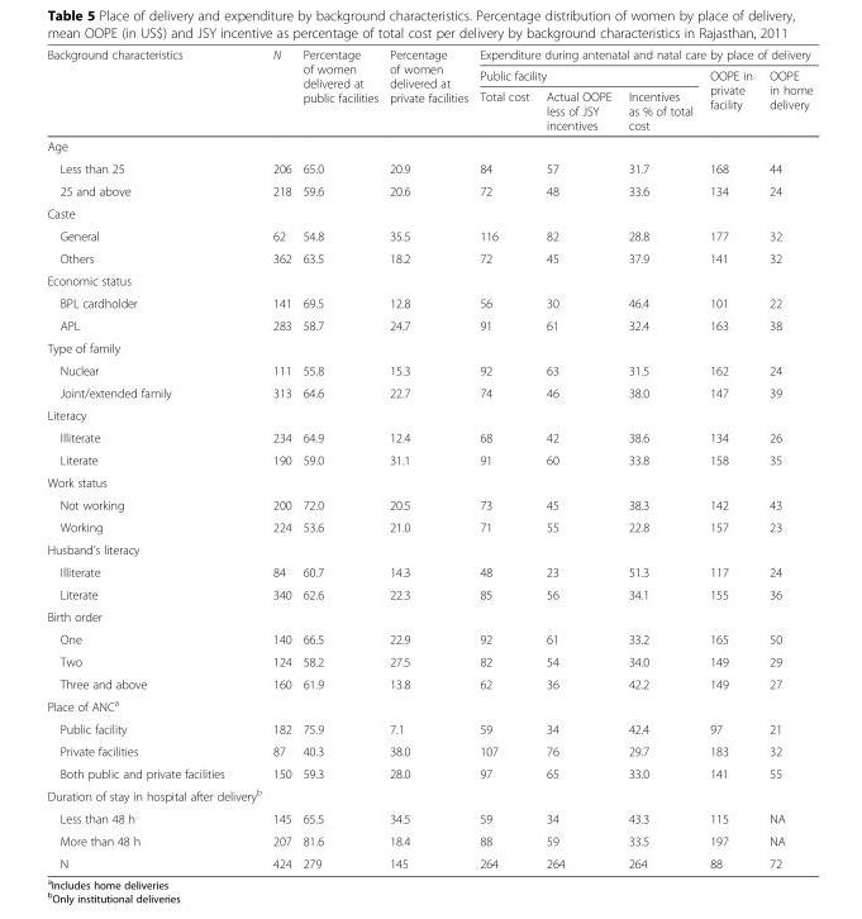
<table><thead><tr><td rowspan="3">Background characteristics</td><td rowspan="3">N</td><td rowspan="3">Percentage of women delivered at public facilities</td><td rowspan="3">Percentage of women delivered at private facilities</td><td colspan="5">Expenditure during antenatal and natal care by place of delivery</td></tr><tr><td colspan="3">Public facility</td><td rowspan="2">OOPE in private facility</td><td rowspan="2">OOPE in home delivery</td></tr><tr><td>Total cost</td><td>Actual OOPE less of JSY incentives</td><td>Incentives as % of total cost</td></tr></thead><tbody><tr><td colspan="9">Age</td></tr><tr><td>Less than 25</td><td>206</td><td>65.0</td><td>20.9</td><td>84</td><td>57</td><td>31.7</td><td>168</td><td>44</td></tr><tr><td>25 and above</td><td>218</td><td>59.6</td><td>20.6</td><td>72</td><td>48</td><td>33.6</td><td>134</td><td>24</td></tr><tr><td colspan="9">Caste</td></tr><tr><td>General</td><td>62</td><td>54.8</td><td>35.5</td><td>116</td><td>82</td><td>28.8</td><td>177</td><td>32</td></tr><tr><td>Others</td><td>362</td><td>63.5</td><td>18.2</td><td>72</td><td>45</td><td>37.9</td><td>141</td><td>32</td></tr><tr><td colspan="9">Economic status</td></tr><tr><td>BPL cardholder</td><td>141</td><td>69.5</td><td>12.8</td><td>56</td><td>30</td><td>46.4</td><td>101</td><td>22</td></tr><tr><td>APL</td><td>283</td><td>58.7</td><td>24.7</td><td>91</td><td>61</td><td>32.4</td><td>163</td><td>38</td></tr><tr><td colspan="9">Type of family</td></tr><tr><td>Nuclear</td><td>111</td><td>55.8</td><td>15.3</td><td>92</td><td>63</td><td>31.5</td><td>162</td><td>24</td></tr><tr><td>Joint/extended family</td><td>313</td><td>64.6</td><td>22.7</td><td>74</td><td>46</td><td>38.0</td><td>147</td><td>39</td></tr><tr><td colspan="9">Literacy</td></tr><tr><td>Illiterate</td><td>234</td><td>64.9</td><td>12.4</td><td>68</td><td>42</td><td>38.6</td><td>134</td><td>26</td></tr><tr><td>Literate</td><td>190</td><td>59.0</td><td>31.1</td><td>91</td><td>60</td><td>33.8</td><td>158</td><td>35</td></tr><tr><td colspan="9">Work status</td></tr><tr><td>Not working</td><td>200</td><td>72.0</td><td>20.5</td><td>73</td><td>45</td><td>38.3</td><td>142</td><td>43</td></tr><tr><td>Working</td><td>224</td><td>53.6</td><td>21.0</td><td>71</td><td>55</td><td>22.8</td><td>157</td><td>23</td></tr><tr><td colspan="9">Husband’s literacy</td></tr><tr><td>Illiterate</td><td>84</td><td>60.7</td><td>14.3</td><td>48</td><td>23</td><td>51.3</td><td>117</td><td>24</td></tr><tr><td>Literate</td><td>340</td><td>62.6</td><td>22.3</td><td>85</td><td>56</td><td>34.1</td><td>155</td><td>36</td></tr><tr><td colspan="9">Birth order</td></tr><tr><td>One</td><td>140</td><td>66.5</td><td>22.9</td><td>92</td><td>61</td><td>33.2</td><td>165</td><td>50</td></tr><tr><td>Two</td><td>124</td><td>58.2</td><td>27.5</td><td>82</td><td>54</td><td>34.0</td><td>149</td><td>29</td></tr><tr><td>Three and above</td><td>160</td><td>61.9</td><td>13.8</td><td>62</td><td>36</td><td>42.2</td><td>149</td><td>27</td></tr><tr><td colspan="9">Place of ANC<sup>a</sup></td></tr><tr><td>Public facility</td><td>182</td><td>75.9</td><td>7.1</td><td>59</td><td>34</td><td>42.4</td><td>97</td><td>21</td></tr><tr><td>Private facilities</td><td>87</td><td>40.3</td><td>38.0</td><td>107</td><td>76</td><td>29.7</td><td>183</td><td>32</td></tr><tr><td>Both public and private facilities</td><td>150</td><td>59.3</td><td>28.0</td><td>97</td><td>65</td><td>33.0</td><td>141</td><td>55</td></tr><tr><td colspan="9">Duration of stay in hospital after delivery<sup>b</sup></td></tr><tr><td>Less than 48 h</td><td>145</td><td>65.5</td><td>34.5</td><td>59</td><td>34</td><td>43.3</td><td>115</td><td>NA</td></tr><tr><td>More than 48 h</td><td>207</td><td>81.6</td><td>18.4</td><td>88</td><td>59</td><td>33.5</td><td>197</td><td>NA</td></tr><tr><td>N</td><td>424</td><td>279</td><td>145</td><td>264</td><td>264</td><td>264</td><td>88</td><td>72</td></tr></tbody></table>